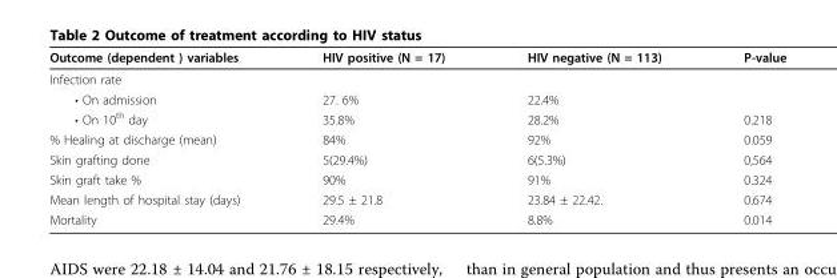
<table><thead><tr><td>Outcome (dependent ) variables</td><td>HIV positive (N = 17)</td><td>HIV negative (N = 113)</td><td>P-value</td></tr></thead><tbody><tr><td colspan="4">Infection rate</td></tr><tr><td>• On admission</td><td>27. 6%</td><td>22.4%</td><td></td></tr><tr><td>• On 10<sup>th</sup> day</td><td>35.8%</td><td>28.2%</td><td>0.218</td></tr><tr><td>% Healing at discharge (mean)</td><td>84%</td><td>92%</td><td>0.059</td></tr><tr><td>Skin grafting done</td><td>5(29.4%)</td><td>6(5.3%)</td><td>0,564</td></tr><tr><td>Skin graft take %</td><td>90%</td><td>91%</td><td>0.324</td></tr><tr><td>Mean length of hospital stay (days)</td><td>29.5 ± 21.8</td><td>23.84 ± 22.42.</td><td>0.674</td></tr><tr><td>Mortality</td><td>29.4%</td><td>8.8%</td><td>0.014</td></tr></tbody></table>